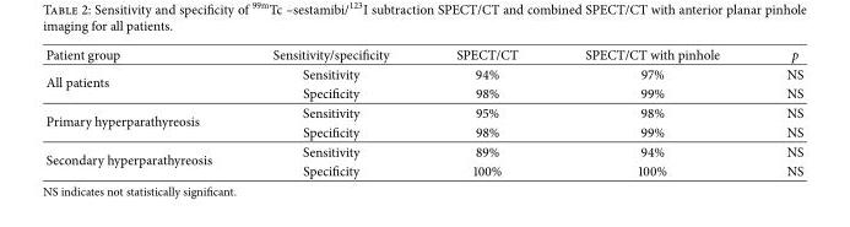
<table><thead><tr><td>Patient group</td><td>Sensitivity/specificity</td><td>SPECT/CT</td><td>SPECT/CT with pinhole</td><td>p</td></tr></thead><tbody><tr><td rowspan="2">All patients</td><td>Sensitivity</td><td>94%</td><td>97%</td><td>NS</td></tr><tr><td>Specificity</td><td>98%</td><td>99%</td><td>NS</td></tr><tr><td rowspan="2">Primary hyperparathyreosis</td><td>Sensitivity</td><td>95%</td><td>98%</td><td>NS</td></tr><tr><td>Specificity</td><td>98%</td><td>99%</td><td>NS</td></tr><tr><td rowspan="2">Secondary hyperparathyreosis</td><td>Sensitivity</td><td>89%</td><td>94%</td><td>NS</td></tr><tr><td>Specificity</td><td>100%</td><td>100%</td><td>NS</td></tr></tbody></table>